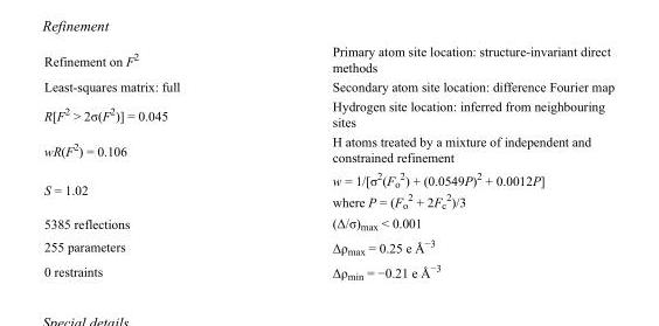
<table><tbody><tr><td>Refinement on F<sup>2</sup></td><td>Primary atom site location: structure-invariant direct methods</td></tr><tr><td>Least-squares matrix: full</td><td>Secondary atom site location: difference Fourier map</td></tr><tr><td>R[F<sup>2</sup> &gt; 2σ(F<sup>2</sup>)] = 0.045</td><td>Hydrogen site location: inferred from neighbouring sites</td></tr><tr><td>wR(F<sup>2</sup>) = 0.106</td><td>H atoms treated by a mixture of independent and constrained refinement</td></tr><tr><td>S = 1.02</td><td>w = 1/[σ<sup>2</sup>(F<sub>o</sub> <sup>2</sup>) + (0.0549P)<sup>2</sup> + 0.0012P] where P = (F<sub>o</sub> <sup>2</sup> + 2F<sub>c</sub> <sup>2</sup>)/3</td></tr><tr><td>5385 reflections</td><td>(Δ/σ)<sub>max</sub> &lt; 0.001</td></tr><tr><td>255 parameters</td><td>Δρ<sub>max</sub> = 0.25 e Å<sup>−3</sup></td></tr><tr><td>0 restraints</td><td>Δρ<sub>min</sub> = −0.21 e Å<sup>−3</sup></td></tr></tbody></table>